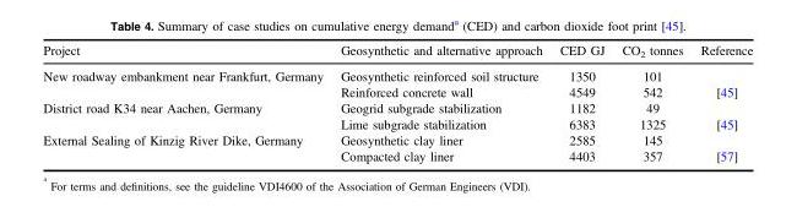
<table><thead><tr><td>Project</td><td>Geosynthetic and alternative approach</td><td>CED GJ</td><td>CO<sub>2</sub> tonnes</td><td>Reference</td></tr></thead><tbody><tr><td rowspan="2">New roadway embankment near Frankfurt, Germany</td><td>Geosynthetic reinforced soil structure</td><td>1350</td><td>101</td><td></td></tr><tr><td>Reinforced concrete wall</td><td>4549</td><td>542</td><td>[45]</td></tr><tr><td rowspan="2">District road K34 near Aachen, Germany</td><td>Geogrid subgrade stabilization</td><td>1182</td><td>49</td><td></td></tr><tr><td>Lime subgrade stabilization</td><td>6383</td><td>1325</td><td>[45]</td></tr><tr><td rowspan="2">External Sealing of Kinzig River Dike, Germany</td><td>Geosynthetic clay liner</td><td>2585</td><td>145</td><td></td></tr><tr><td>Compacted clay liner</td><td>4403</td><td>357</td><td>[57]</td></tr></tbody></table>